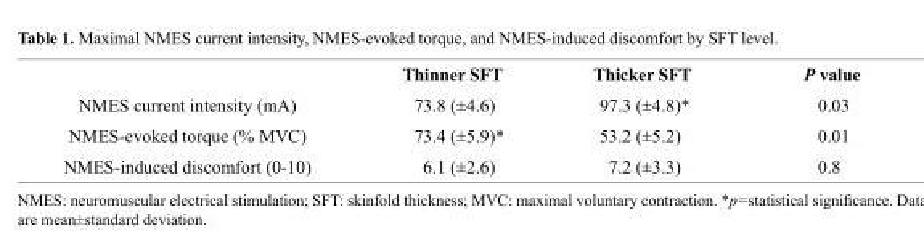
<table><thead><tr><td></td><td>Thinner SFT</td><td>Thicker SFT</td><td>P value</td></tr></thead><tbody><tr><td>NMES current intensity (mA)</td><td>73.8 (±4.6)</td><td>97.3 (±4.8)*</td><td>0.03</td></tr><tr><td>NMES-evoked torque (% MVC)</td><td>73.4 (±5.9)*</td><td>53.2 (±5.2)</td><td>0.01</td></tr><tr><td>NMES-induced discomfort (0-10)</td><td>6.1 (±2.6)</td><td>7.2 (±3.3)</td><td>0.8</td></tr></tbody></table>